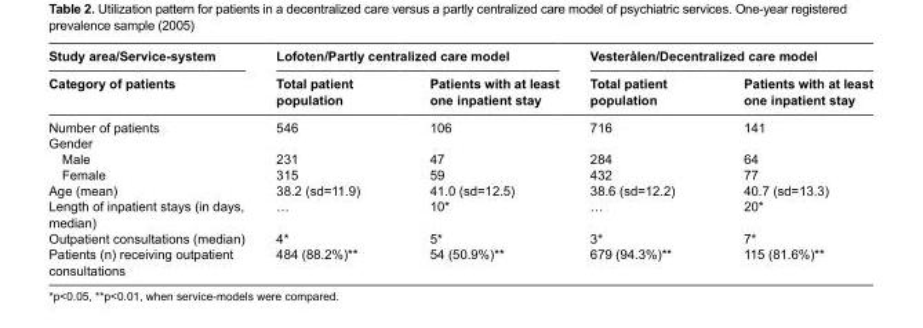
<table><thead><tr><td rowspan="2">Study area/Service-system Category of patients</td><td colspan="2">Lofoten/Partly centralized care model</td><td colspan="2">Vesterålen/Decentralized care model</td></tr><tr><td>Total patient population</td><td>Patients with at least one inpatient stay</td><td>Total patient population</td><td>Patients with at least one inpatient stay</td></tr></thead><tbody><tr><td>Number of patients</td><td>546</td><td>106</td><td>716</td><td>141</td></tr><tr><td colspan="5">Gender</td></tr><tr><td>Male</td><td>231</td><td>47</td><td>284</td><td>64</td></tr><tr><td>Female</td><td>315</td><td>59</td><td>432</td><td>77</td></tr><tr><td>Age (mean)</td><td>38.2 (sd=11.9)</td><td>41.0 (sd=12.5)</td><td>38.6 (sd=12.2)</td><td>40.7 (sd=13.3)</td></tr><tr><td>Length of inpatient stays (in days, median)</td><td>…</td><td>10*</td><td>…</td><td>20*</td></tr><tr><td>Outpatient consultations (median)</td><td>4*</td><td>5*</td><td>3*</td><td>7*</td></tr><tr><td>Patients (n) receiving outpatient consultations</td><td>484 (88.2%)**</td><td>54 (50.9%)**</td><td>679 (94.3%)**</td><td>115 (81.6%)**</td></tr></tbody></table>